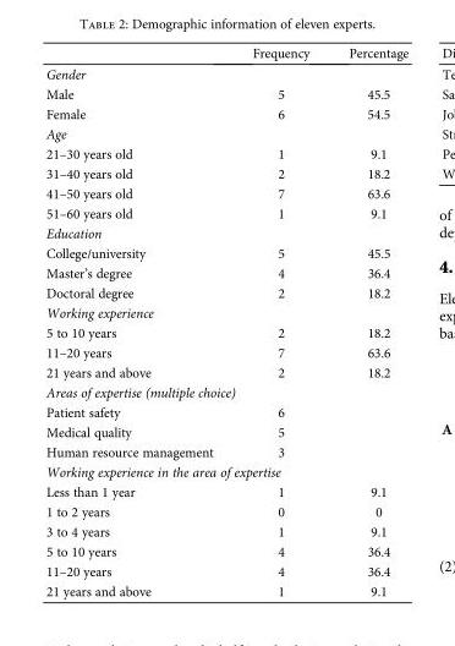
<table><thead><tr><td></td><td>Frequency</td><td>Percentage</td></tr></thead><tbody><tr><td colspan="3">Gender</td></tr><tr><td>Male</td><td>5</td><td>45.5</td></tr><tr><td>Female</td><td>6</td><td>54.5</td></tr><tr><td colspan="3">Age</td></tr><tr><td>21–30 years old</td><td>1</td><td>9.1</td></tr><tr><td>31–40 years old</td><td>2</td><td>18.2</td></tr><tr><td>41–50 years old</td><td>7</td><td>63.6</td></tr><tr><td>51–60 years old</td><td>1</td><td>9.1</td></tr><tr><td colspan="3">Education</td></tr><tr><td>College/university</td><td>5</td><td>45.5</td></tr><tr><td>Master’s degree</td><td>4</td><td>36.4</td></tr><tr><td>Doctoral degree</td><td>2</td><td>18.2</td></tr><tr><td colspan="3">Working experience</td></tr><tr><td>5 to 10 years</td><td>2</td><td>18.2</td></tr><tr><td>11–20 years</td><td>7</td><td>63.6</td></tr><tr><td>21 years and above</td><td>2</td><td>18.2</td></tr><tr><td colspan="3">Areas of expertise (multiple choice)</td></tr><tr><td>Patient safety</td><td>6</td><td></td></tr><tr><td>Medical quality</td><td>5</td><td></td></tr><tr><td>Human resource management</td><td>3</td><td></td></tr><tr><td colspan="3">Working experience in the area of expertise</td></tr><tr><td>Less than 1 year</td><td>1</td><td>9.1</td></tr><tr><td>1 to 2 years</td><td>0</td><td>0</td></tr><tr><td>3 to 4 years</td><td>1</td><td>9.1</td></tr><tr><td>5 to 10 years</td><td>4</td><td>36.4</td></tr><tr><td>11–20 years</td><td>4</td><td>36.4</td></tr><tr><td>21 years and above</td><td>1</td><td>9.1</td></tr></tbody></table>